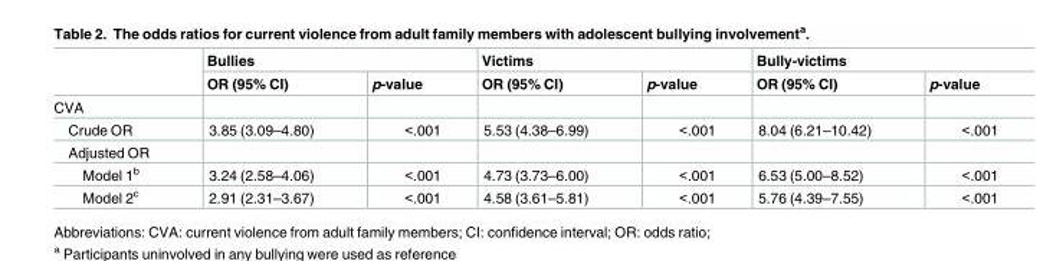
<table><thead><tr><td rowspan="2"></td><td colspan="2">Bullies</td><td colspan="2">Victims</td><td colspan="2">Bully-victims</td></tr><tr><td>OR (95% CI)</td><td>p-value</td><td>OR (95% CI)</td><td>p-value</td><td>OR (95% CI)</td><td>p-value</td></tr></thead><tbody><tr><td colspan="7">CVA</td></tr><tr><td>Crude OR</td><td>3.85 (3.09–4.80)</td><td>&lt;.001</td><td>5.53 (4.38–6.99)</td><td>&lt;.001</td><td>8.04 (6.21–10.42)</td><td>&lt;.001</td></tr><tr><td colspan="7">Adjusted OR</td></tr><tr><td>Model 1<sup>b</sup></td><td>3.24 (2.58–4.06)</td><td>&lt;.001</td><td>4.73 (3.73–6.00)</td><td>&lt;.001</td><td>6.53 (5.00–8.52)</td><td>&lt;.001</td></tr><tr><td>Model 2<sup>c</sup></td><td>2.91 (2.31–3.67)</td><td>&lt;.001</td><td>4.58 (3.61–5.81)</td><td>&lt;.001</td><td>5.76 (4.39–7.55)</td><td>&lt;.001</td></tr></tbody></table>